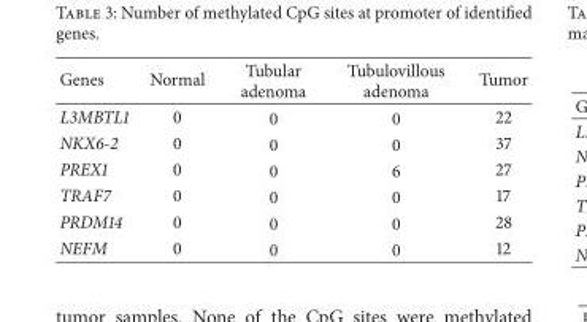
<table><thead><tr><td>Genes</td><td>Normal</td><td>Tubular adenoma</td><td>Tubulovillous adenoma</td><td>Tumor</td></tr></thead><tbody><tr><td>L3MBTL1</td><td>0</td><td>0</td><td>0</td><td>22</td></tr><tr><td>NKX6-2</td><td>0</td><td>0</td><td>0</td><td>37</td></tr><tr><td>PREX1</td><td>0</td><td>0</td><td>6</td><td>27</td></tr><tr><td>TRAF7</td><td>0</td><td>0</td><td>0</td><td>17</td></tr><tr><td>PRDM14</td><td>0</td><td>0</td><td>0</td><td>28</td></tr><tr><td>NEFM</td><td>0</td><td>0</td><td>0</td><td>12</td></tr></tbody></table>